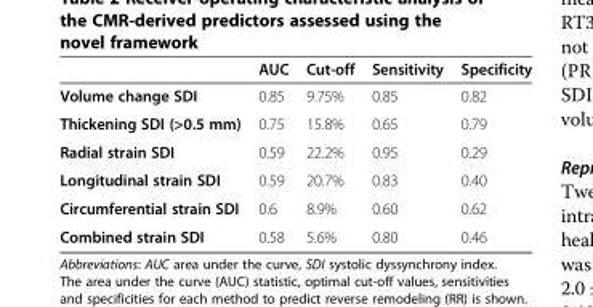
<table><thead><tr><td></td><td>AUC</td><td>Cut-off</td><td>Sensitivity</td><td>Specificity</td></tr></thead><tbody><tr><td>Volume change SDI</td><td>0.85</td><td>9.75%</td><td>0.85</td><td>0.82</td></tr><tr><td>Thickening SDI (&gt;0.5 mm)</td><td>0.75</td><td>15.8%</td><td>0.65</td><td>0.79</td></tr><tr><td>Radial strain SDI</td><td>0.59</td><td>22.2%</td><td>0.95</td><td>0.29</td></tr><tr><td>Longitudinal strain SDI</td><td>0.59</td><td>20.7%</td><td>0.83</td><td>0.40</td></tr><tr><td>Circumferential strain SDI</td><td>0.6</td><td>8.9%</td><td>0.60</td><td>0.62</td></tr><tr><td>Combined strain SDI</td><td>0.58</td><td>5.6%</td><td>0.80</td><td>0.46</td></tr></tbody></table>